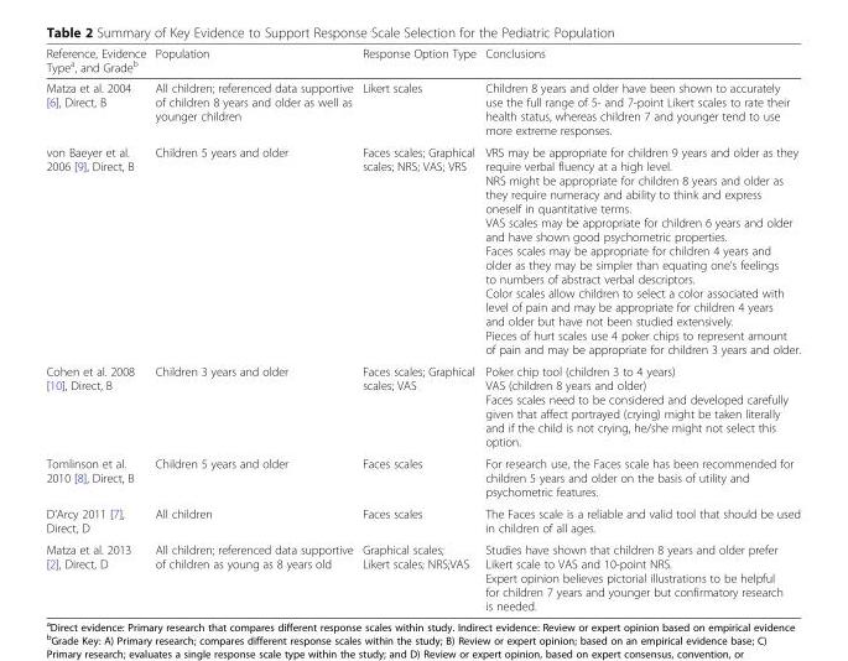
<table><thead><tr><td>Reference, Evidence Typea, and Gradeb</td><td>Population</td><td>Response Option Type</td><td>Conclusions</td></tr></thead><tbody><tr><td>Matza et al. 2004 [6], Direct, B</td><td>All children; referenced data supportive of children 8 years and older as well as younger children</td><td>Likert scales</td><td>Children 8 years and older have been shown to accurately use the full range of 5- and 7-point Likert scales to rate their health status, whereas children 7 and younger tend to use more extreme responses.</td></tr><tr><td>von Baeyer et al. 2006 [9], Direct, B</td><td>Children 5 years and older</td><td>Faces scales; Graphical scales; NRS; VAS; VRS</td><td>VRS may be appropriate for children 9 years and older as they require verbal fluency at a high level. NRS might be appropriate for children 8 years and older as they require numeracy and ability to think and express oneself in quantitative terms. VAS scales may be appropriate for children 6 years and older and have shown good psychometric properties. Faces scales may be appropriate for children 4 years and older as they may be simpler than equating one’s feelings to numbers of abstract verbal descriptors. Color scales allow children to select a color associated with level of pain and may be appropriate for children 4 years and older but have not been studied extensively. Pieces of hurt scales use 4 poker chips to represent amount of pain and may be appropriate for children 3 years and older.</td></tr><tr><td>Cohen et al. 2008 [10], Direct, B</td><td>Children 3 years and older</td><td>Faces scales; Graphical scales; VAS</td><td>Poker chip tool (children 3 to 4 years) VAS (children 8 years and older) Faces scales need to be considered and developed carefully given that affect portrayed (crying) might be taken literally and if the child is not crying, he/she might not select this option.</td></tr><tr><td>Tomlinson et al. 2010 [8], Direct, B</td><td>Children 5 years and older</td><td>Faces scales</td><td>For research use, the Faces scale has been recommended for children 5 years and older on the basis of utility and psychometric features.</td></tr><tr><td>D’Arcy 2011 [7], Direct, D</td><td>All children</td><td>Faces scales</td><td>The Faces scale is a reliable and valid tool that should be used in children of all ages.</td></tr><tr><td>Matza et al. 2013 [2], Direct, D</td><td>All children; referenced data supportive of children as young as 8 years old</td><td>Graphical scales; Likert scales; NRS;VAS</td><td>Studies have shown that children 8 years and older prefer Likert scale to VAS and 10-point NRS. Expert opinion believes pictorial illustrations to be helpful for children 7 years and younger but confirmatory research is needed.</td></tr></tbody></table>